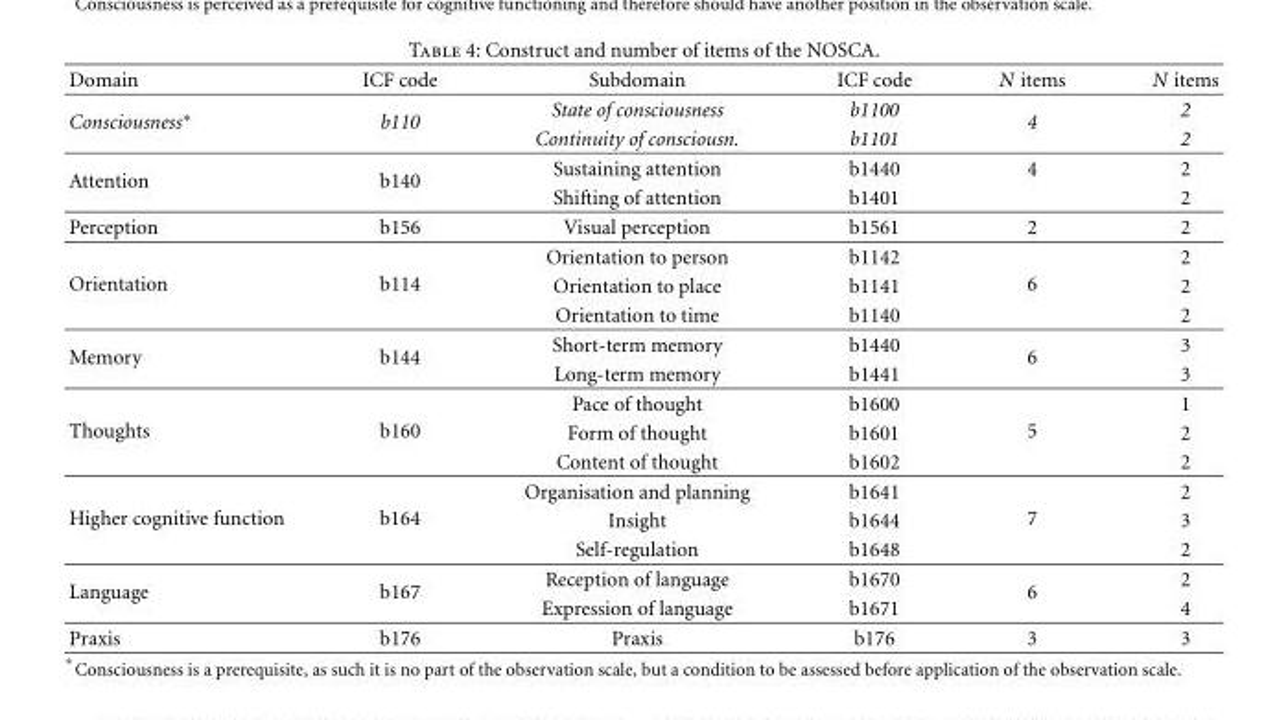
<table><thead><tr><td>Domain</td><td>ICF code</td><td>Subdomain</td><td>ICF code</td><td>N items</td><td>N items</td></tr></thead><tbody><tr><td rowspan="2">Consciousness∗</td><td rowspan="2">b110</td><td>State of consciousness</td><td>b1100</td><td rowspan="2">4</td><td>2</td></tr><tr><td>Continuity of consciousn.</td><td>b1101</td><td>2</td></tr><tr><td rowspan="2">Attention</td><td rowspan="2">b140</td><td>Sustaining attention</td><td>b1440</td><td rowspan="2">4</td><td>2</td></tr><tr><td>Shifting of attention</td><td>b1401</td><td>2</td></tr><tr><td>Perception</td><td>b156</td><td>Visual perception</td><td>b1561</td><td>2</td><td>2</td></tr><tr><td rowspan="3">Orientation</td><td rowspan="3">b114</td><td>Orientation to person</td><td>b1142</td><td rowspan="3">6</td><td>2</td></tr><tr><td>Orientation to place</td><td>b1141</td><td>2</td></tr><tr><td>Orientation to time</td><td>b1140</td><td>2</td></tr><tr><td rowspan="2">Memory</td><td rowspan="2">b144</td><td>Short-term memory</td><td>b1440</td><td rowspan="2">6</td><td>3</td></tr><tr><td>Long-term memory</td><td>b1441</td><td>3</td></tr><tr><td rowspan="3">Thoughts</td><td rowspan="3">b160</td><td>Pace of thought</td><td>b1600</td><td rowspan="3">5</td><td>1</td></tr><tr><td>Form of thought</td><td>b1601</td><td>2</td></tr><tr><td>Content of thought</td><td>b1602</td><td>2</td></tr><tr><td rowspan="3">Higher cognitive function</td><td rowspan="3">b164</td><td>Organisation and planning</td><td>b1641</td><td rowspan="3">7</td><td>2</td></tr><tr><td>Insight</td><td>b1644</td><td>3</td></tr><tr><td>Self-regulation</td><td>b1648</td><td>2</td></tr><tr><td rowspan="2">Language</td><td rowspan="2">b167</td><td>Reception of language</td><td>b1670</td><td rowspan="2">6</td><td>2</td></tr><tr><td>Expression of language</td><td>b1671</td><td>4</td></tr><tr><td>Praxis</td><td>b176</td><td>Praxis</td><td>b176</td><td>3</td><td>3</td></tr></tbody></table>